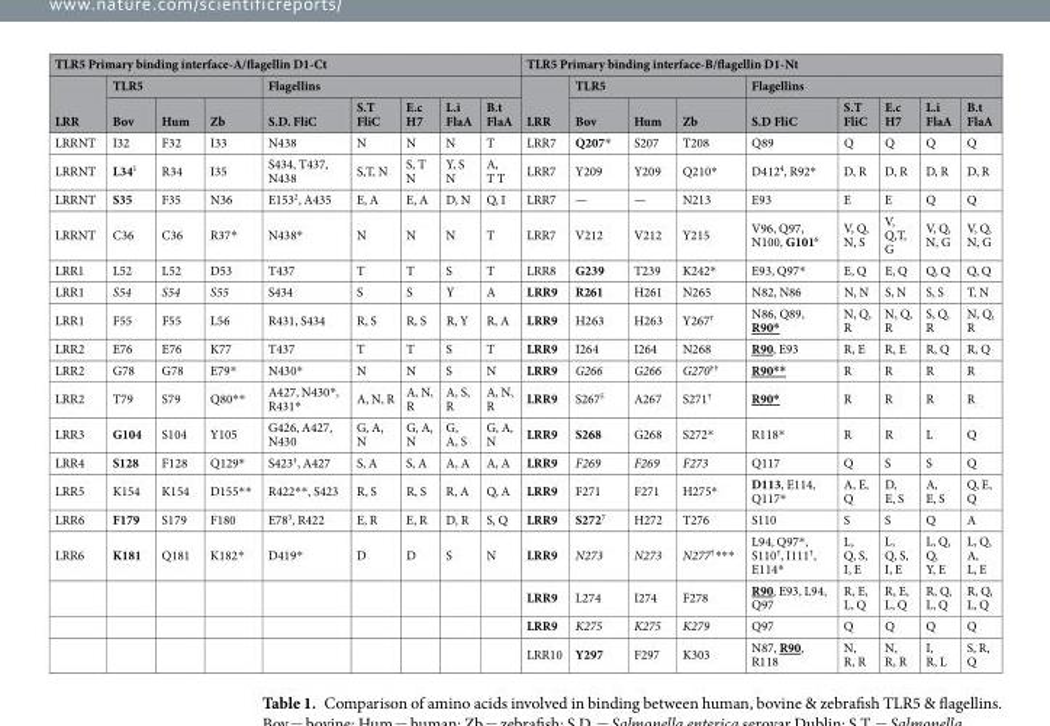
<table><thead><tr><td colspan="9">TLR5 Primary binding interface-A/flagellin D1-Ct</td><td colspan="9">TLR5 Primary binding interface-B/flagellin D1-Nt</td></tr><tr><td rowspan="2">LRR</td><td colspan="3">TLR5</td><td colspan="5">Flagellins</td><td rowspan="2">LRR</td><td colspan="3">TLR5</td><td colspan="5">Flagellins</td></tr><tr><td>Bov</td><td>Hum</td><td>Zb</td><td>S.D. FliC</td><td>S.T FliC</td><td>E.c H7</td><td>L.i FlaA</td><td>B.t FlaA</td><td>Bov</td><td>Hum</td><td>Zb</td><td>S.D FliC</td><td>S.T FliC</td><td>E.c H7</td><td>L.i FlaA</td><td>B.t FlaA</td></tr></thead><tbody><tr><td>LRRNT</td><td>I32</td><td>F32</td><td>I33</td><td>N438</td><td>N</td><td>N</td><td>N</td><td>T</td><td>LRR7</td><td>Q207*</td><td>S207</td><td>T208</td><td>Q89</td><td>Q</td><td>Q</td><td>Q</td><td>Q</td></tr><tr><td>LRRNT</td><td>L34<sup>1</sup></td><td>R34</td><td>I35</td><td>S434, T437, N438</td><td>S,T, N</td><td>S, T N</td><td>Y, S N</td><td>A, T T</td><td>LRR7</td><td>Y209</td><td>Y209</td><td>Q210*</td><td>D412<sup>4</sup>, R92*</td><td>D, R</td><td>D, R</td><td>D, R</td><td>D, R</td></tr><tr><td>LRRNT</td><td>S35</td><td>F35</td><td>N36</td><td>E153<sup>2</sup>, A435</td><td>E, A</td><td>E, A</td><td>D, N</td><td>Q, I</td><td>LRR7</td><td>—</td><td>—</td><td>N213</td><td>E93</td><td>E</td><td>E</td><td>Q</td><td>Q</td></tr><tr><td>LRRNT</td><td>C36</td><td>C36</td><td>R37*</td><td>N438*</td><td>N</td><td>N</td><td>N</td><td>T</td><td>LRR7</td><td>V212</td><td>V212</td><td>Y215</td><td>V96, Q97, N100, G101<sup>6</sup></td><td>V, Q, N, S</td><td>V, Q,T, G</td><td>V, Q, N, G</td><td>V, Q, N, G</td></tr><tr><td>LRR1</td><td>L52</td><td>L52</td><td>D53</td><td>T437</td><td>T</td><td>T</td><td>S</td><td>T</td><td>LRR8</td><td>G239</td><td>T239</td><td>K242*</td><td>E93, Q97*</td><td>E, Q</td><td>E, Q</td><td>Q, Q</td><td>Q, Q</td></tr><tr><td>LRR1</td><td>S54</td><td>S54</td><td>S55</td><td>S434</td><td>S</td><td>S</td><td>Y</td><td>A</td><td>LRR9</td><td>R261</td><td>H261</td><td>N265</td><td>N82, N86</td><td>N, N</td><td>S, N</td><td>S, S</td><td>T, N</td></tr><tr><td>LRR1</td><td>F55</td><td>F55</td><td>L56</td><td>R431, S434</td><td>R, S</td><td>R, S</td><td>R, Y</td><td>R, A</td><td>LRR9</td><td>H263</td><td>H263</td><td>Y267<sup>†</sup></td><td>N86, Q89, R90*</td><td>N, Q, R</td><td>N, Q, R</td><td>S, Q, R</td><td>N, Q, R</td></tr><tr><td>LRR2</td><td>E76</td><td>E76</td><td>K77</td><td>T437</td><td>T</td><td>T</td><td>S</td><td>T</td><td>LRR9</td><td>I264</td><td>I264</td><td>N268</td><td>R90, E93</td><td>R, E</td><td>R, E</td><td>R, Q</td><td>R, Q</td></tr><tr><td>LRR2</td><td>G78</td><td>G78</td><td>E79*</td><td>N430*</td><td>N</td><td>N</td><td>S</td><td>N</td><td>LRR9</td><td>G266</td><td>G266</td><td>G270<sup>††</sup></td><td>R90**</td><td>R</td><td>R</td><td>R</td><td>R</td></tr><tr><td>LRR2</td><td>T79</td><td>S79</td><td>Q80**</td><td>A427, N430*, R431*</td><td>A, N, R</td><td>A, N, R</td><td>A, S, R</td><td>A, N, R</td><td>LRR9</td><td>S267<sup>5</sup></td><td>A267</td><td>S271<sup>†</sup></td><td>R90*</td><td>R</td><td>R</td><td>R</td><td>R</td></tr><tr><td>LRR3</td><td>G104</td><td>S104</td><td>Y105</td><td>G426, A427, N430</td><td>G, A, N</td><td>G, A, N</td><td>G, A, S</td><td>G, A, N</td><td>LRR9</td><td>S268</td><td>G268</td><td>S272*</td><td>R118*</td><td>R</td><td>R</td><td>L</td><td>Q</td></tr><tr><td>LRR4</td><td>S128</td><td>F128</td><td>Q129*</td><td>S423<sup>†</sup>, A427</td><td>S, A</td><td>S, A</td><td>A, A</td><td>A, A</td><td>LRR9</td><td>F269</td><td>F269</td><td>F273</td><td>Q117</td><td>Q</td><td>S</td><td>S</td><td>Q</td></tr><tr><td>LRR5</td><td>K154</td><td>K154</td><td>D155**</td><td>R422**, S423</td><td>R, S</td><td>R, S</td><td>R, A</td><td>Q, A</td><td>LRR9</td><td>F271</td><td>F271</td><td>H275*</td><td>D113, E114, Q117*</td><td>A, E, Q</td><td>D, E, S</td><td>A, E, S</td><td>Q, E, Q</td></tr><tr><td>LRR6</td><td>F179</td><td>S179</td><td>F180</td><td>E78<sup>3</sup>, R422</td><td>E, R</td><td>E, R</td><td>D, R</td><td>S, Q</td><td>LRR9</td><td>S272<sup>7</sup></td><td>H272</td><td>T276</td><td>S110</td><td>S</td><td>S</td><td>Q</td><td>A</td></tr><tr><td rowspan="4">LRR6</td><td>K181</td><td>Q181</td><td>K182*</td><td>D419*</td><td>D</td><td>D</td><td>S</td><td>N</td><td>LRR9</td><td>N273</td><td>N273</td><td>N277<sup>†</sup>***</td><td>L94, Q97*, S110<sup>†</sup>, I111<sup>†</sup>, E114*</td><td>L, Q, S, I, E</td><td>L, Q, S, I, E</td><td>L, Q, Q, Y, E</td><td>L, Q, A, L, E</td></tr><tr><td></td><td></td><td></td><td></td><td></td><td></td><td></td><td></td><td>LRR9</td><td>L274</td><td>I274</td><td>F278</td><td>R90, E93, L94, Q97</td><td>R, E, L, Q</td><td>R, E, L, Q</td><td>R, Q, L, Q</td><td>R, Q, L, Q</td></tr><tr><td></td><td></td><td></td><td></td><td></td><td></td><td></td><td></td><td>LRR9</td><td>K275</td><td>K275</td><td>K279</td><td>Q97</td><td>Q</td><td>Q</td><td>Q</td><td>Q</td></tr><tr><td></td><td></td><td></td><td></td><td></td><td></td><td></td><td></td><td>LRR10</td><td>Y297</td><td>F297</td><td>K303</td><td>N87, R90, R118</td><td>N, R, R</td><td>N, R, R</td><td>I, R, L</td><td>S, R, Q</td></tr></tbody></table>